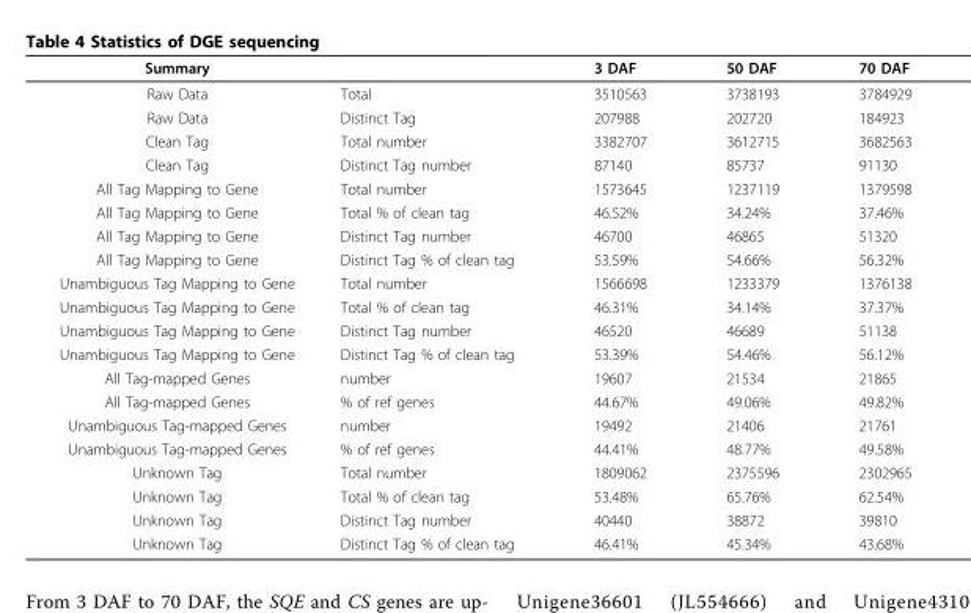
<table><thead><tr><td>Summary</td><td></td><td>3 DAF</td><td>50 DAF</td><td>70 DAF</td></tr></thead><tbody><tr><td>Raw Data</td><td>Total</td><td>3510563</td><td>3738193</td><td>3784929</td></tr><tr><td>Raw Data</td><td>Distinct Tag</td><td>207988</td><td>202720</td><td>184923</td></tr><tr><td>Clean Tag</td><td>Total number</td><td>3382707</td><td>3612715</td><td>3682563</td></tr><tr><td>Clean Tag</td><td>Distinct Tag number</td><td>87140</td><td>85737</td><td>91130</td></tr><tr><td>All Tag Mapping to Gene</td><td>Total number</td><td>1573645</td><td>1237119</td><td>1379598</td></tr><tr><td>All Tag Mapping to Gene</td><td>Total % of clean tag</td><td>46.52%</td><td>34.24%</td><td>37.46%</td></tr><tr><td>All Tag Mapping to Gene</td><td>Distinct Tag number</td><td>46700</td><td>46865</td><td>51320</td></tr><tr><td>All Tag Mapping to Gene</td><td>Distinct Tag % of clean tag</td><td>53.59%</td><td>54.66%</td><td>56.32%</td></tr><tr><td>Unambiguous Tag Mapping to Gene</td><td>Total number</td><td>1566698</td><td>1233379</td><td>1376138</td></tr><tr><td>Unambiguous Tag Mapping to Gene</td><td>Total % of clean tag</td><td>46.31%</td><td>34.14%</td><td>37.37%</td></tr><tr><td>Unambiguous Tag Mapping to Gene</td><td>Distinct Tag number</td><td>46520</td><td>46689</td><td>51138</td></tr><tr><td>Unambiguous Tag Mapping to Gene</td><td>Distinct Tag % of clean tag</td><td>53.39%</td><td>54.46%</td><td>56.12%</td></tr><tr><td>All Tag-mapped Genes</td><td>number</td><td>19607</td><td>21534</td><td>21865</td></tr><tr><td>All Tag-mapped Genes</td><td>% of ref genes</td><td>44.67%</td><td>49.06%</td><td>49.82%</td></tr><tr><td>Unambiguous Tag-mapped Genes</td><td>number</td><td>19492</td><td>21406</td><td>21761</td></tr><tr><td>Unambiguous Tag-mapped Genes</td><td>% of ref genes</td><td>44.41%</td><td>48.77%</td><td>49.58%</td></tr><tr><td>Unknown Tag</td><td>Total number</td><td>1809062</td><td>2375596</td><td>2302965</td></tr><tr><td>Unknown Tag</td><td>Total % of clean tag</td><td>53.48%</td><td>65.76%</td><td>62.54%</td></tr><tr><td>Unknown Tag</td><td>Distinct Tag number</td><td>40440</td><td>38872</td><td>39810</td></tr><tr><td>Unknown Tag</td><td>Distinct Tag % of clean tag</td><td>46.41%</td><td>45.34%</td><td>43.68%</td></tr></tbody></table>